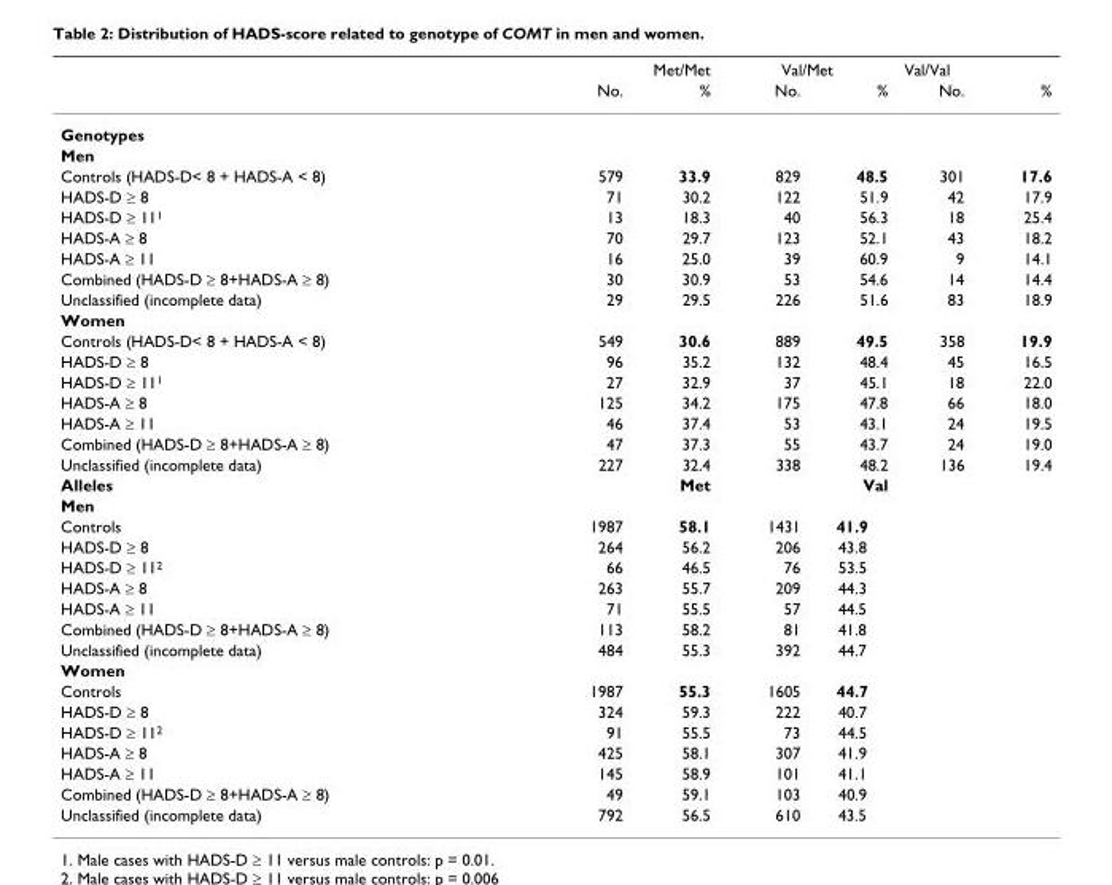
<table><thead><tr><td rowspan="2"></td><td colspan="2">Met/Met</td><td colspan="2">Val/Met</td><td colspan="2">Val/Val</td></tr><tr><td>No.</td><td>%</td><td>No.</td><td>%</td><td>No.</td><td>%</td></tr></thead><tbody><tr><td colspan="7">Genotypes</td></tr><tr><td colspan="7">Men</td></tr><tr><td>Controls (HADS-D&lt; 8 + HADS-A &lt; 8)</td><td>579</td><td>33.9</td><td>829</td><td>48.5</td><td>301</td><td>17.6</td></tr><tr><td>HADS-D ≥ 8</td><td>71</td><td>30.2</td><td>122</td><td>51.9</td><td>42</td><td>17.9</td></tr><tr><td>HADS-D ≥ 11<sup>1</sup></td><td>13</td><td>18.3</td><td>40</td><td>56.3</td><td>18</td><td>25.4</td></tr><tr><td>HADS-A ≥ 8</td><td>70</td><td>29.7</td><td>123</td><td>52.1</td><td>43</td><td>18.2</td></tr><tr><td>HADS-A ≥ 11</td><td>16</td><td>25.0</td><td>39</td><td>60.9</td><td>9</td><td>14.1</td></tr><tr><td>Combined (HADS-D ≥ 8+HADS-A ≥ 8)</td><td>30</td><td>30.9</td><td>53</td><td>54.6</td><td>14</td><td>14.4</td></tr><tr><td>Unclassified (incomplete data)</td><td>29</td><td>29.5</td><td>226</td><td>51.6</td><td>83</td><td>18.9</td></tr><tr><td colspan="7">Women</td></tr><tr><td>Controls (HADS-D&lt; 8 + HADS-A &lt; 8)</td><td>549</td><td>30.6</td><td>889</td><td>49.5</td><td>358</td><td>19.9</td></tr><tr><td>HADS-D ≥ 8</td><td>96</td><td>35.2</td><td>132</td><td>48.4</td><td>45</td><td>16.5</td></tr><tr><td>HADS-D ≥ 11<sup>1</sup></td><td>27</td><td>32.9</td><td>37</td><td>45.1</td><td>18</td><td>22.0</td></tr><tr><td>HADS-A ≥ 8</td><td>125</td><td>34.2</td><td>175</td><td>47.8</td><td>66</td><td>18.0</td></tr><tr><td>HADS-A ≥ 11</td><td>46</td><td>37.4</td><td>53</td><td>43.1</td><td>24</td><td>19.5</td></tr><tr><td>Combined (HADS-D ≥ 8+HADS-A ≥ 8)</td><td>47</td><td>37.3</td><td>55</td><td>43.7</td><td>24</td><td>19.0</td></tr><tr><td>Unclassified (incomplete data)</td><td>227</td><td>32.4</td><td>338</td><td>48.2</td><td>136</td><td>19.4</td></tr><tr><td>Alleles</td><td colspan="2">Met</td><td colspan="2">Val</td><td></td><td></td></tr><tr><td colspan="7">Men</td></tr><tr><td>Controls</td><td>1987</td><td>58.1</td><td>1431</td><td>41.9</td><td></td><td></td></tr><tr><td>HADS-D ≥ 8</td><td>264</td><td>56.2</td><td>206</td><td>43.8</td><td></td><td></td></tr><tr><td>HADS-D ≥ 11<sup>2</sup></td><td>66</td><td>46.5</td><td>76</td><td>53.5</td><td></td><td></td></tr><tr><td>HADS-A ≥ 8</td><td>263</td><td>55.7</td><td>209</td><td>44.3</td><td></td><td></td></tr><tr><td>HADS-A ≥ 11</td><td>71</td><td>55.5</td><td>57</td><td>44.5</td><td></td><td></td></tr><tr><td>Combined (HADS-D ≥ 8+HADS-A ≥ 8)</td><td>113</td><td>58.2</td><td>81</td><td>41.8</td><td></td><td></td></tr><tr><td>Unclassified (incomplete data)</td><td>484</td><td>55.3</td><td>392</td><td>44.7</td><td></td><td></td></tr><tr><td colspan="7">Women</td></tr><tr><td>Controls</td><td>1987</td><td>55.3</td><td>1605</td><td>44.7</td><td></td><td></td></tr><tr><td>HADS-D ≥ 8</td><td>324</td><td>59.3</td><td>222</td><td>40.7</td><td></td><td></td></tr><tr><td>HADS-D ≥ 11<sup>2</sup></td><td>91</td><td>55.5</td><td>73</td><td>44.5</td><td></td><td></td></tr><tr><td>HADS-A ≥ 8</td><td>425</td><td>58.1</td><td>307</td><td>41.9</td><td></td><td></td></tr><tr><td>HADS-A ≥ 11</td><td>145</td><td>58.9</td><td>101</td><td>41.1</td><td></td><td></td></tr><tr><td>Combined (HADS-D ≥ 8+HADS-A ≥ 8)</td><td>49</td><td>59.1</td><td>103</td><td>40.9</td><td></td><td></td></tr><tr><td>Unclassified (incomplete data)</td><td>792</td><td>56.5</td><td>610</td><td>43.5</td><td></td><td></td></tr></tbody></table>